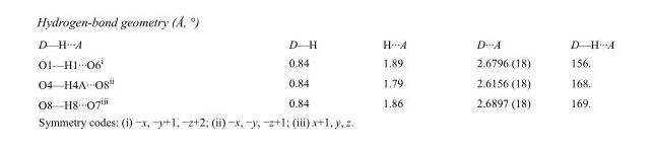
<table><tbody><tr><td>D—H···A</td><td>D—H</td><td>H···A</td><td>D···A</td><td>D—H···A</td></tr><tr><td>O1—H1···O6<sup>i</sup></td><td>0.84</td><td>1.89</td><td>2.6796 (18)</td><td>156.</td></tr><tr><td>O4—H4A···O8<sup>ii</sup></td><td>0.84</td><td>1.79</td><td>2.6156 (18)</td><td>168.</td></tr><tr><td>O8—H8···O7<sup>iii</sup></td><td>0.84</td><td>1.86</td><td>2.6897 (18)</td><td>169.</td></tr></tbody></table>